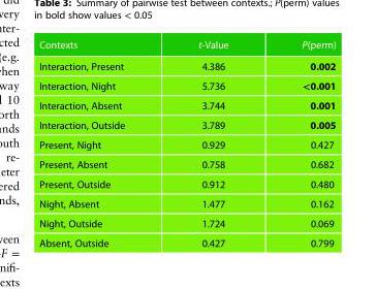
<table><thead><tr><td>Contexts</td><td>t-Value</td><td>P(perm)</td></tr></thead><tbody><tr><td>Interaction, Present</td><td>4.386</td><td>0.002</td></tr><tr><td>Interaction, Night</td><td>5.736</td><td>&lt;0.001</td></tr><tr><td>Interaction, Absent</td><td>3.744</td><td>0.001</td></tr><tr><td>Interaction, Outside</td><td>3.789</td><td>0.005</td></tr><tr><td>Present, Night</td><td>0.929</td><td>0.427</td></tr><tr><td>Present, Absent</td><td>0.758</td><td>0.682</td></tr><tr><td>Present, Outside</td><td>0.912</td><td>0.480</td></tr><tr><td>Night, Absent</td><td>1.477</td><td>0.162</td></tr><tr><td>Night, Outside</td><td>1.724</td><td>0.069</td></tr><tr><td>Absent, Outside</td><td>0.427</td><td>0.799</td></tr></tbody></table>